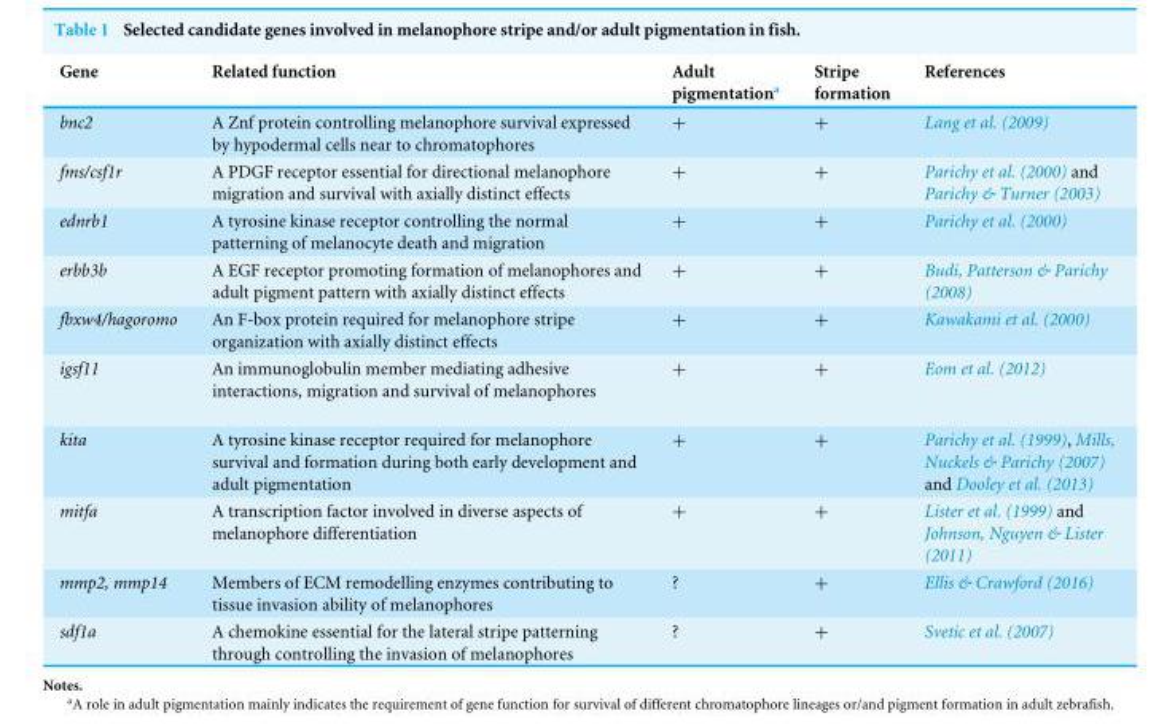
<table><thead><tr><td>Gene</td><td>Related function</td><td>Adult pigmentation<sup>a</sup></td><td>Stripe formation</td><td>References</td></tr></thead><tbody><tr><td>bnc2</td><td>A Znf protein controlling melanophore survival expressed by hypodermal cells near to chromatophores</td><td>+</td><td>+</td><td>Lang et al. (2009)</td></tr><tr><td>fms/csf1r</td><td>A PDGF receptor essential for directional melanophore migration and survival with axially distinct effects</td><td>+</td><td>+</td><td>Parichy et al. (2000) and Parichy &amp; Turner (2003)</td></tr><tr><td>ednrb1</td><td>A tyrosine kinase receptor controlling the normal patterning of melanocyte death and migration</td><td>+</td><td>+</td><td>Parichy et al. (2000)</td></tr><tr><td>erbb3b</td><td>A EGF receptor promoting formation of melanophores and adult pigment pattern with axially distinct effects</td><td>+</td><td>+</td><td>Budi, Patterson &amp; Parichy (2008)</td></tr><tr><td>fbxw4/hagoromo</td><td>An F-box protein required for melanophore stripe organization with axially distinct effects</td><td>+</td><td>+</td><td>Kawakami et al. (2000)</td></tr><tr><td>igsf11</td><td>An immunoglobulin member mediating adhesive interactions, migration and survival of melanophores</td><td>+</td><td>+</td><td>Eom et al. (2012)</td></tr><tr><td>kita</td><td>A tyrosine kinase receptor required for melanophore survival and formation during both early development and adult pigmentation</td><td>+</td><td>+</td><td>Parichy et al. (1999), Mills, Nuckels &amp; Parichy (2007) and Dooley et al. (2013)</td></tr><tr><td>mitfa</td><td>A transcription factor involved in diverse aspects of melanophore differentiation</td><td>+</td><td>+</td><td>Lister et al. (1999) and Johnson, Nguyen &amp; Lister (2011)</td></tr><tr><td>mmp2, mmp14</td><td>Members of ECM remodelling enzymes contributing to tissue invasion ability of melanophores</td><td>?</td><td>+</td><td>Ellis &amp; Crawford (2016)</td></tr><tr><td>sdf1a</td><td>A chemokine essential for the lateral stripe patterning through controlling the invasion of melanophores</td><td>?</td><td>+</td><td>Svetic et al. (2007)</td></tr></tbody></table>